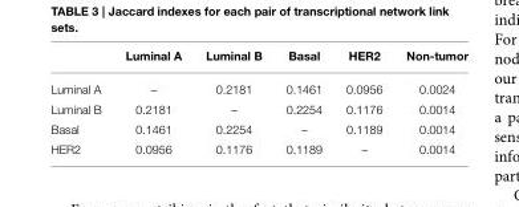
<table><thead><tr><td></td><td>Luminal A</td><td>Luminal B</td><td>Basal</td><td>HER2</td><td>Non-tumor</td></tr></thead><tbody><tr><td>Luminal A</td><td>–</td><td>0.2181</td><td>0.1461</td><td>0.0956</td><td>0.0024</td></tr><tr><td>Luminal B</td><td>0.2181</td><td>–</td><td>0.2254</td><td>0.1176</td><td>0.0014</td></tr><tr><td>Basal</td><td>0.1461</td><td>0.2254</td><td>–</td><td>0.1189</td><td>0.0014</td></tr><tr><td>HER2</td><td>0.0956</td><td>0.1176</td><td>0.1189</td><td>–</td><td>0.0014</td></tr></tbody></table>